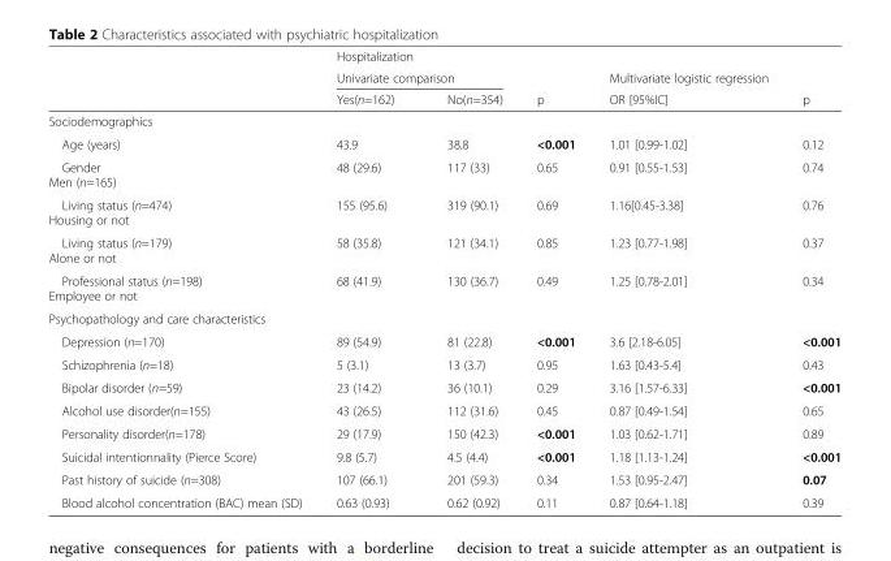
<table><thead><tr><td rowspan="3"></td><td>Hospitalization</td><td></td><td rowspan="3">p</td><td rowspan="3">Multivariate logistic regression OR [95%IC]</td><td rowspan="3">p</td></tr><tr><td colspan="2">Univariate comparison</td></tr><tr><td>Yes(n=162)</td><td>No(n=354)</td></tr></thead><tbody><tr><td colspan="6">Sociodemographics</td></tr><tr><td>Age (years)</td><td>43.9</td><td>38.8</td><td>&lt;0.001</td><td>1.01 [0.99-1.02]</td><td>0.12</td></tr><tr><td>Gender Men (n=165)</td><td>48 (29.6)</td><td>117 (33)</td><td>0.65</td><td>0.91 [0.55-1.53]</td><td>0.74</td></tr><tr><td>Living status (n=474) Housing or not</td><td>155 (95.6)</td><td>319 (90.1)</td><td>0.69</td><td>1.16[0.45-3.38]</td><td>0.76</td></tr><tr><td>Living status (n=179) Alone or not</td><td>58 (35.8)</td><td>121 (34.1)</td><td>0.85</td><td>1.23 [0.77-1.98]</td><td>0.37</td></tr><tr><td>Professional status (n=198) Employee or not</td><td>68 (41.9)</td><td>130 (36.7)</td><td>0.49</td><td>1.25 [0.78-2.01]</td><td>0.34</td></tr><tr><td colspan="6">Psychopathology and care characteristics</td></tr><tr><td>Depression (n=170)</td><td>89 (54.9)</td><td>81 (22.8)</td><td>&lt;0.001</td><td>3.6 [2.18-6.05]</td><td>&lt;0.001</td></tr><tr><td>Schizophrenia (n=18)</td><td>5 (3.1)</td><td>13 (3.7)</td><td>0.95</td><td>1.63 [0.43-5.4]</td><td>0.43</td></tr><tr><td>Bipolar disorder (n=59)</td><td>23 (14.2)</td><td>36 (10.1)</td><td>0.29</td><td>3.16 [1.57-6.33]</td><td>&lt;0.001</td></tr><tr><td>Alcohol use disorder(n=155)</td><td>43 (26.5)</td><td>112 (31.6)</td><td>0.45</td><td>0.87 [0.49-1.54]</td><td>0.65</td></tr><tr><td>Personality disorder(n=178)</td><td>29 (17.9)</td><td>150 (42.3)</td><td>&lt;0.001</td><td>1.03 [0.62-1.71]</td><td>0.89</td></tr><tr><td>Suicidal intentionnality (Pierce Score)</td><td>9.8 (5.7)</td><td>4.5 (4.4)</td><td>&lt;0.001</td><td>1.18 [1.13-1.24]</td><td>&lt;0.001</td></tr><tr><td>Past history of suicide (n=308)</td><td>107 (66.1)</td><td>201 (59.3)</td><td>0.34</td><td>1.53 [0.95-2.47]</td><td>0.07</td></tr><tr><td>Blood alcohol concentration (BAC) mean (SD)</td><td>0.63 (0.93)</td><td>0.62 (0.92)</td><td>0.11</td><td>0.87 [0.64-1.18]</td><td>0.39</td></tr></tbody></table>